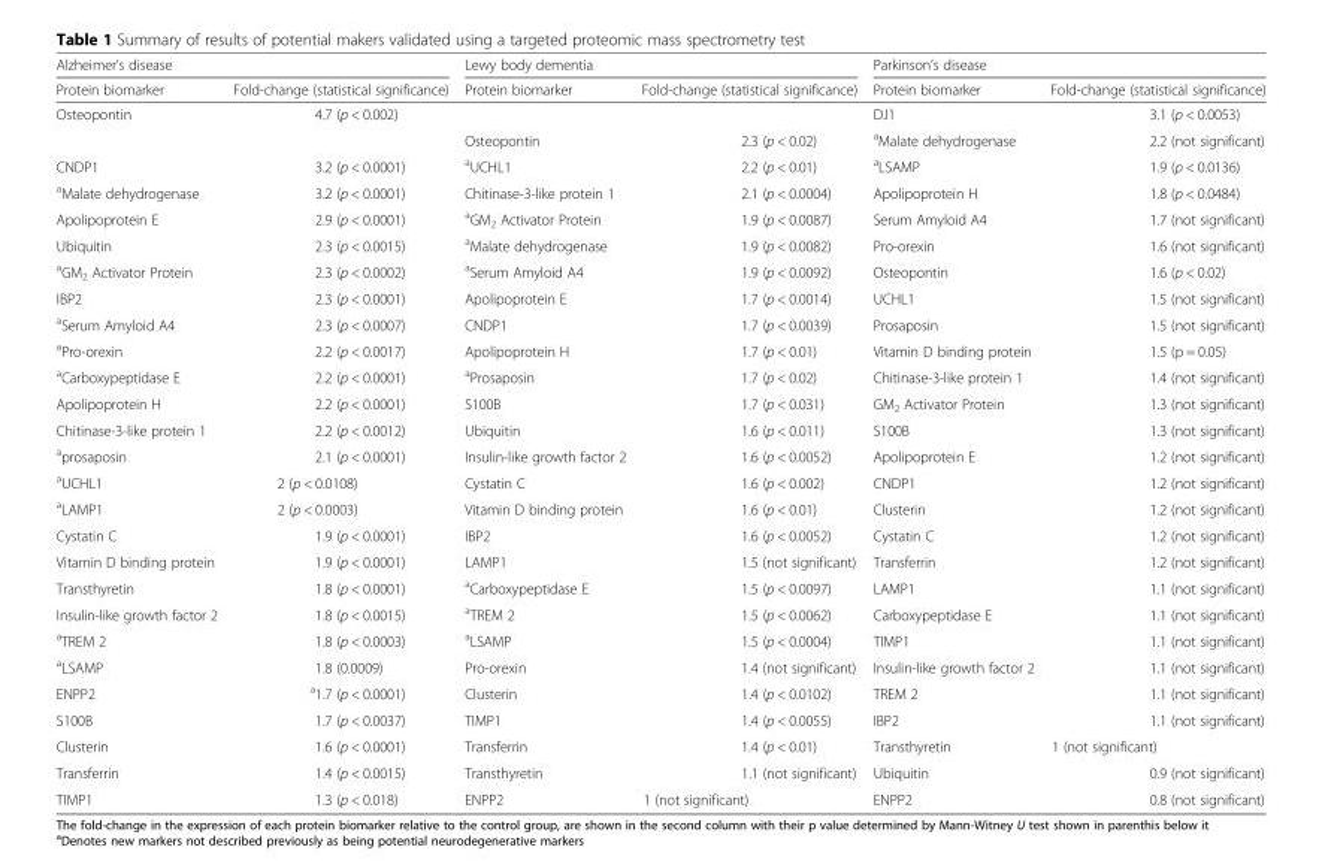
<table><thead><tr><td colspan="2">Alzheimer’s disease</td><td colspan="2">Lewy body dementia</td><td colspan="2">Parkinson’s disease</td></tr><tr><td>Protein biomarker</td><td>Fold-change (statistical significance)</td><td>Protein biomarker</td><td>Fold-change (statistical significance)</td><td>Protein biomarker</td><td>Fold-change (statistical significance)</td></tr></thead><tbody><tr><td rowspan="2">Osteopontin</td><td>4.7 (p &lt; 0.002)</td><td></td><td></td><td>DJ1</td><td>3.1 (p &lt; 0.0053)</td></tr><tr><td></td><td>Osteopontin</td><td>2.3 (p &lt; 0.02)</td><td><sup>a</sup>Malate dehydrogenase</td><td>2.2 (not significant)</td></tr><tr><td>CNDP1</td><td>3.2 (p &lt; 0.0001)</td><td><sup>a</sup>UCHL1</td><td>2.2 (p &lt; 0.01)</td><td><sup>a</sup>LSAMP</td><td>1.9 (p &lt; 0.0136)</td></tr><tr><td><sup>a</sup>Malate dehydrogenase</td><td>3.2 (p &lt; 0.0001)</td><td>Chitinase-3-like protein 1</td><td>2.1 (p &lt; 0.0004)</td><td>Apolipoprotein H</td><td>1.8 (p &lt; 0.0484)</td></tr><tr><td>Apolipoprotein E</td><td>2.9 (p &lt; 0.0001)</td><td><sup>a</sup>GM<sub>2</sub> Activator Protein</td><td>1.9 (p &lt; 0.0087)</td><td>Serum Amyloid A4</td><td>1.7 (not significant)</td></tr><tr><td>Ubiquitin</td><td>2.3 (p &lt; 0.0015)</td><td><sup>a</sup>Malate dehydrogenase</td><td>1.9 (p &lt; 0.0082)</td><td>Pro-orexin</td><td>1.6 (not significant)</td></tr><tr><td><sup>a</sup>GM<sub>2</sub> Activator Protein</td><td>2.3 (p &lt; 0.0002)</td><td><sup>a</sup>Serum Amyloid A4</td><td>1.9 (p &lt; 0.0092)</td><td>Osteopontin</td><td>1.6 (p &lt; 0.02)</td></tr><tr><td>IBP2</td><td>2.3 (p &lt; 0.0001)</td><td>Apolipoprotein E</td><td>1.7 (p &lt; 0.0014)</td><td>UCHL1</td><td>1.5 (not significant)</td></tr><tr><td><sup>a</sup>Serum Amyloid A4</td><td>2.3 (p &lt; 0.0007)</td><td>CNDP1</td><td>1.7 (p &lt; 0.0039)</td><td>Prosaposin</td><td>1.5 (not significant)</td></tr><tr><td><sup>a</sup>Pro-orexin</td><td>2.2 (p &lt; 0.0017)</td><td>Apolipoprotein H</td><td>1.7 (p &lt; 0.01)</td><td>Vitamin D binding protein</td><td>1.5 (p = 0.05)</td></tr><tr><td><sup>a</sup>Carboxypeptidase E</td><td>2.2 (p &lt; 0.0001)</td><td><sup>a</sup>Prosaposin</td><td>1.7 (p &lt; 0.02)</td><td>Chitinase-3-like protein 1</td><td>1.4 (not significant)</td></tr><tr><td>Apolipoprotein H</td><td>2.2 (p &lt; 0.0001)</td><td>S100B</td><td>1.7 (p &lt; 0.031)</td><td>GM<sub>2</sub> Activator Protein</td><td>1.3 (not significant)</td></tr><tr><td>Chitinase-3-like protein 1</td><td>2.2 (p &lt; 0.0012)</td><td>Ubiquitin</td><td>1.6 (p &lt; 0.011)</td><td>S100B</td><td>1.3 (not significant)</td></tr><tr><td><sup>a</sup>prosaposin</td><td>2.1 (p &lt; 0.0001)</td><td>Insulin-like growth factor 2</td><td>1.6 (p &lt; 0.0052)</td><td>Apolipoprotein E</td><td>1.2 (not significant)</td></tr><tr><td><sup>a</sup>UCHL1</td><td>2 (p &lt; 0.0108)</td><td>Cystatin C</td><td>1.6 (p &lt; 0.002)</td><td>CNDP1</td><td>1.2 (not significant)</td></tr><tr><td><sup>a</sup>LAMP1</td><td>2 (p &lt; 0.0003)</td><td>Vitamin D binding protein</td><td>1.6 (p &lt; 0.01)</td><td>Clusterin</td><td>1.2 (not significant)</td></tr><tr><td>Cystatin C</td><td>1.9 (p &lt; 0.0001)</td><td>IBP2</td><td>1.6 (p &lt; 0.0052)</td><td>Cystatin C</td><td>1.2 (not significant)</td></tr><tr><td>Vitamin D binding protein</td><td>1.9 (p &lt; 0.0001)</td><td>LAMP1</td><td>1.5 (not significant)</td><td>Transferrin</td><td>1.2 (not significant)</td></tr><tr><td>Transthyretin</td><td>1.8 (p &lt; 0.0001)</td><td><sup>a</sup>Carboxypeptidase E</td><td>1.5 (p &lt; 0.0097)</td><td>LAMP1</td><td>1.1 (not significant)</td></tr><tr><td>Insulin-like growth factor 2</td><td>1.8 (p &lt; 0.0015)</td><td><sup>a</sup>TREM 2</td><td>1.5 (p &lt; 0.0062)</td><td>Carboxypeptidase E</td><td>1.1 (not significant)</td></tr><tr><td><sup>a</sup>TREM 2</td><td>1.8 (p &lt; 0.0003)</td><td><sup>a</sup>LSAMP</td><td>1.5 (p &lt; 0.0004)</td><td>TIMP1</td><td>1.1 (not significant)</td></tr><tr><td><sup>a</sup>LSAMP</td><td>1.8 (0.0009)</td><td>Pro-orexin</td><td>1.4 (not significant)</td><td>Insulin-like growth factor 2</td><td>1.1 (not significant)</td></tr><tr><td>ENPP2</td><td><sup>a</sup>1.7 (p &lt; 0.0001)</td><td>Clusterin</td><td>1.4 (p &lt; 0.0102)</td><td>TREM 2</td><td>1.1 (not significant)</td></tr><tr><td>S100B</td><td>1.7 (p &lt; 0.0037)</td><td>TIMP1</td><td>1.4 (p &lt; 0.0055)</td><td>IBP2</td><td>1.1 (not significant)</td></tr><tr><td>Clusterin</td><td>1.6 (p &lt; 0.0001)</td><td>Transferrin</td><td>1.4 (p &lt; 0.01)</td><td>Transthyretin</td><td>1 (not significant)</td></tr><tr><td>Transferrin</td><td>1.4 (p &lt; 0.0015)</td><td>Transthyretin</td><td>1.1 (not significant)</td><td>Ubiquitin</td><td>0.9 (not significant)</td></tr><tr><td>TIMP1</td><td>1.3 (p &lt; 0.018)</td><td>ENPP2</td><td>1 (not significant)</td><td>ENPP2</td><td>0.8 (not significant)</td></tr></tbody></table>